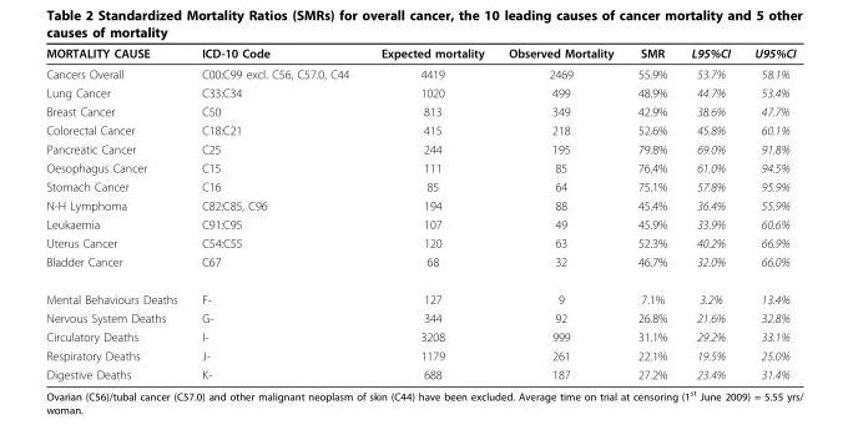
<table><thead><tr><td>MORTALITY CAUSE</td><td>ICD-10 Code</td><td>Expected mortality</td><td>Observed Mortality</td><td>SMR</td><td>L95%CI</td><td>U95%CI</td></tr></thead><tbody><tr><td>Cancers Overall</td><td>C00:C99 excl. C56, C57.0, C44</td><td>4419</td><td>2469</td><td>55.9%</td><td>53.7%</td><td>58.1%</td></tr><tr><td>Lung Cancer</td><td>C33:C34</td><td>1020</td><td>499</td><td>48.9%</td><td>44.7%</td><td>53.4%</td></tr><tr><td>Breast Cancer</td><td>C50</td><td>813</td><td>349</td><td>42.9%</td><td>38.6%</td><td>47.7%</td></tr><tr><td>Colorectal Cancer</td><td>C18:C21</td><td>415</td><td>218</td><td>52.6%</td><td>45.8%</td><td>60.1%</td></tr><tr><td>Pancreatic Cancer</td><td>C25</td><td>244</td><td>195</td><td>79.8%</td><td>69.0%</td><td>91.8%</td></tr><tr><td>Oesophagus Cancer</td><td>C15</td><td>111</td><td>85</td><td>76.4%</td><td>61.0%</td><td>94.5%</td></tr><tr><td>Stomach Cancer</td><td>C16</td><td>85</td><td>64</td><td>75.1%</td><td>57.8%</td><td>95.9%</td></tr><tr><td>N-H Lymphoma</td><td>C82:C85, C96</td><td>194</td><td>88</td><td>45.4%</td><td>36.4%</td><td>55.9%</td></tr><tr><td>Leukaemia</td><td>C91:C95</td><td>107</td><td>49</td><td>45.9%</td><td>33.9%</td><td>60.6%</td></tr><tr><td>Uterus Cancer</td><td>C54:C55</td><td>120</td><td>63</td><td>52.3%</td><td>40.2%</td><td>66.9%</td></tr><tr><td>Bladder Cancer</td><td>C67</td><td>68</td><td>32</td><td>46.7%</td><td>32.0%</td><td>66.0%</td></tr><tr><td>Mental Behaviours Deaths</td><td>F-</td><td>127</td><td>9</td><td>7.1%</td><td>3.2%</td><td>13.4%</td></tr><tr><td>Nervous System Deaths</td><td>G-</td><td>344</td><td>92</td><td>26.8%</td><td>21.6%</td><td>32.8%</td></tr><tr><td>Circulatory Deaths</td><td>I-</td><td>3208</td><td>999</td><td>31.1%</td><td>29.2%</td><td>33.1%</td></tr><tr><td>Respiratory Deaths</td><td>J-</td><td>1179</td><td>261</td><td>22.1%</td><td>19.5%</td><td>25.0%</td></tr><tr><td>Digestive Deaths</td><td>K-</td><td>688</td><td>187</td><td>27.2%</td><td>23.4%</td><td>31.4%</td></tr></tbody></table>